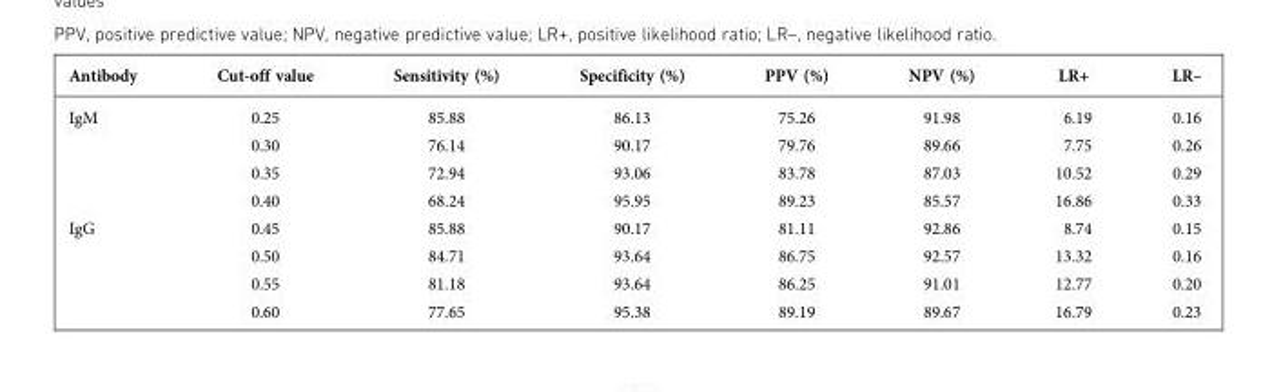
<table><thead><tr><td>Antibody</td><td>Cut-off value</td><td>Sensitivity (%)</td><td>Specificity (%)</td><td>PPV (%)</td><td>NPV (%)</td><td>LR+</td><td>LR–</td></tr></thead><tbody><tr><td rowspan="4">IgM</td><td>0.25</td><td>85.88</td><td>86.13</td><td>75.26</td><td>91.98</td><td>6.19</td><td>0.16</td></tr><tr><td>0.30</td><td>76.14</td><td>90.17</td><td>79.76</td><td>89.66</td><td>7.75</td><td>0.26</td></tr><tr><td>0.35</td><td>72.94</td><td>93.06</td><td>83.78</td><td>87.03</td><td>10.52</td><td>0.29</td></tr><tr><td>0.40</td><td>68.24</td><td>95.95</td><td>89.23</td><td>85.57</td><td>16.86</td><td>0.33</td></tr><tr><td rowspan="4">IgG</td><td>0.45</td><td>85.88</td><td>90.17</td><td>81.11</td><td>92.86</td><td>8.74</td><td>0.15</td></tr><tr><td>0.50</td><td>84.71</td><td>93.64</td><td>86.75</td><td>92.57</td><td>13.32</td><td>0.16</td></tr><tr><td>0.55</td><td>81.18</td><td>93.64</td><td>86.25</td><td>91.01</td><td>12.77</td><td>0.20</td></tr><tr><td>0.60</td><td>77.65</td><td>95.38</td><td>89.19</td><td>89.67</td><td>16.79</td><td>0.23</td></tr></tbody></table>